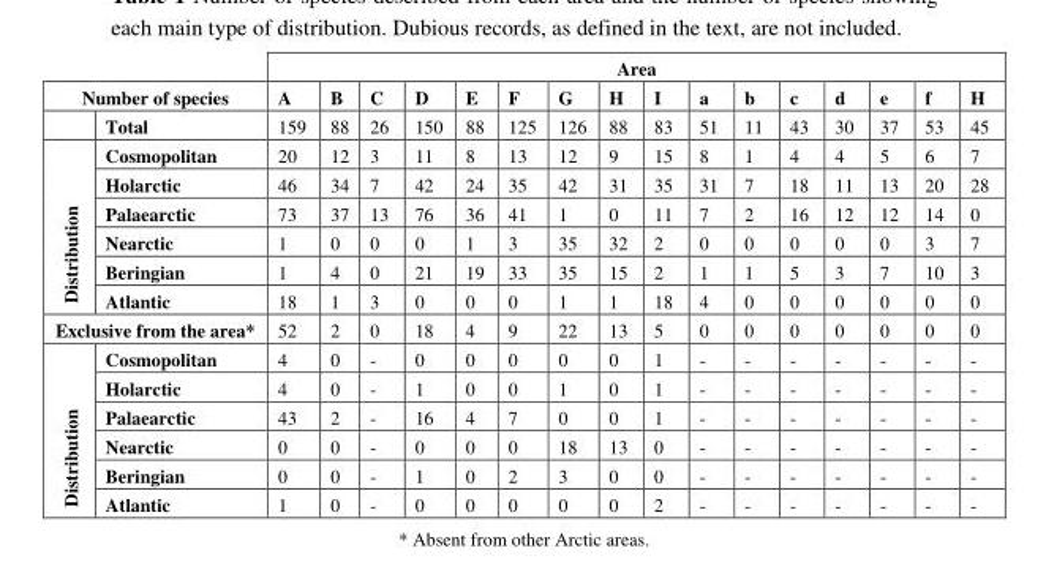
<table><thead><tr><td></td><td></td><td colspan="16">Area</td></tr><tr><td colspan="2">Number of species</td><td>A</td><td>B</td><td>C</td><td>D</td><td>E</td><td>F</td><td>G</td><td>H</td><td>I</td><td>a</td><td>b</td><td>c</td><td>d</td><td>e</td><td>f</td><td>H</td></tr></thead><tbody><tr><td rowspan="7">Distribution</td><td>Total</td><td>159</td><td>88</td><td>26</td><td>150</td><td>88</td><td>125</td><td>126</td><td>88</td><td>83</td><td>51</td><td>11</td><td>43</td><td>30</td><td>37</td><td>53</td><td>45</td></tr><tr><td>Cosmopolitan</td><td>20</td><td>12</td><td>3</td><td>11</td><td>8</td><td>13</td><td>12</td><td>9</td><td>15</td><td>8</td><td>1</td><td>4</td><td>4</td><td>5</td><td>6</td><td>7</td></tr><tr><td>Holarctic</td><td>46</td><td>34</td><td>7</td><td>42</td><td>24</td><td>35</td><td>42</td><td>31</td><td>35</td><td>31</td><td>7</td><td>18</td><td>11</td><td>13</td><td>20</td><td>28</td></tr><tr><td>Palaearctic</td><td>73</td><td>37</td><td>13</td><td>76</td><td>36</td><td>41</td><td>1</td><td>0</td><td>11</td><td>7</td><td>2</td><td>16</td><td>12</td><td>12</td><td>14</td><td>0</td></tr><tr><td>Nearctic</td><td>1</td><td>0</td><td>0</td><td>0</td><td>1</td><td>3</td><td>35</td><td>32</td><td>2</td><td>0</td><td>0</td><td>0</td><td>0</td><td>0</td><td>3</td><td>7</td></tr><tr><td>Beringian</td><td>1</td><td>4</td><td>0</td><td>21</td><td>19</td><td>33</td><td>35</td><td>15</td><td>2</td><td>1</td><td>1</td><td>5</td><td>3</td><td>7</td><td>10</td><td>3</td></tr><tr><td>Atlantic</td><td>18</td><td>1</td><td>3</td><td>0</td><td>0</td><td>0</td><td>1</td><td>1</td><td>18</td><td>4</td><td>0</td><td>0</td><td>0</td><td>0</td><td>0</td><td>0</td></tr><tr><td colspan="2">Exclusive from the area*</td><td>52</td><td>2</td><td>0</td><td>18</td><td>4</td><td>9</td><td>22</td><td>13</td><td>5</td><td>0</td><td>0</td><td>0</td><td>0</td><td>0</td><td>0</td><td>0</td></tr><tr><td rowspan="6">Distribution</td><td>Cosmopolitan</td><td>4</td><td>0</td><td>-</td><td>0</td><td>0</td><td>0</td><td>0</td><td>0</td><td>1</td><td>-</td><td>-</td><td>-</td><td>-</td><td>-</td><td>-</td><td>-</td></tr><tr><td>Holarctic</td><td>4</td><td>0</td><td>-</td><td>1</td><td>0</td><td>0</td><td>1</td><td>0</td><td>1</td><td>-</td><td>-</td><td>-</td><td>-</td><td>-</td><td>-</td><td>-</td></tr><tr><td>Palaearctic</td><td>43</td><td>2</td><td>-</td><td>16</td><td>4</td><td>7</td><td>0</td><td>0</td><td>1</td><td>-</td><td>-</td><td>-</td><td>-</td><td>-</td><td>-</td><td>-</td></tr><tr><td>Nearctic</td><td>0</td><td>0</td><td>-</td><td>0</td><td>0</td><td>0</td><td>18</td><td>13</td><td>0</td><td>-</td><td>-</td><td>-</td><td>-</td><td>-</td><td>-</td><td>-</td></tr><tr><td>Beringian</td><td>0</td><td>0</td><td>-</td><td>1</td><td>0</td><td>2</td><td>3</td><td>0</td><td>0</td><td>-</td><td>-</td><td>-</td><td>-</td><td>-</td><td>-</td><td>-</td></tr><tr><td>Atlantic</td><td>1</td><td>0</td><td>-</td><td>0</td><td>0</td><td>0</td><td>0</td><td>0</td><td>2</td><td>-</td><td>-</td><td>-</td><td>-</td><td>-</td><td>-</td><td>-</td></tr></tbody></table>